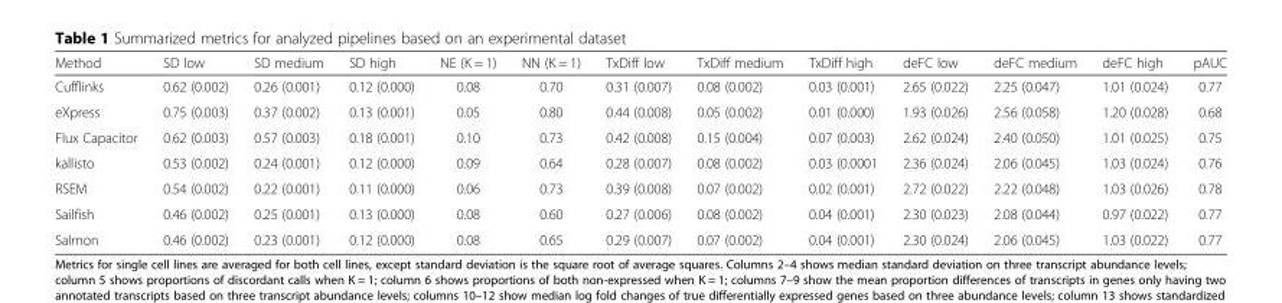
<table><thead><tr><td>Method</td><td>SD low</td><td>SD medium</td><td>SD high</td><td>NE (K = 1)</td><td>NN (K = 1)</td><td>TxDiff low</td><td>TxDiff medium</td><td>TxDiff high</td><td>deFC low</td><td>deFC medium</td><td>deFC high</td><td>pAUC</td></tr></thead><tbody><tr><td>Cufflinks</td><td>0.62 (0.002)</td><td>0.26 (0.001)</td><td>0.12 (0.000)</td><td>0.08</td><td>0.70</td><td>0.31 (0.007)</td><td>0.08 (0.002)</td><td>0.03 (0.001)</td><td>2.65 (0.022)</td><td>2.25 (0.047)</td><td>1.01 (0.024)</td><td>0.77</td></tr><tr><td>eXpress</td><td>0.75 (0.003)</td><td>0.37 (0.002)</td><td>0.13 (0.001)</td><td>0.05</td><td>0.80</td><td>0.44 (0.008)</td><td>0.05 (0.002)</td><td>0.01 (0.000)</td><td>1.93 (0.026)</td><td>2.56 (0.058)</td><td>1.20 (0.028)</td><td>0.68</td></tr><tr><td>Flux Capacitor</td><td>0.62 (0.003)</td><td>0.57 (0.003)</td><td>0.18 (0.001)</td><td>0.10</td><td>0.73</td><td>0.42 (0.008)</td><td>0.15 (0.004)</td><td>0.07 (0.003)</td><td>2.62 (0.024)</td><td>2.40 (0.050)</td><td>1.01 (0.025)</td><td>0.75</td></tr><tr><td>kallisto</td><td>0.53 (0.002)</td><td>0.24 (0.001)</td><td>0.12 (0.000)</td><td>0.09</td><td>0.64</td><td>0.28 (0.007)</td><td>0.08 (0.002)</td><td>0.03 (0.0001</td><td>2.36 (0.024)</td><td>2.06 (0.045)</td><td>1.03 (0.024)</td><td>0.76</td></tr><tr><td>RSEM</td><td>0.54 (0.002)</td><td>0.22 (0.001)</td><td>0.11 (0.000)</td><td>0.06</td><td>0.73</td><td>0.39 (0.008)</td><td>0.07 (0.002)</td><td>0.02 (0.001)</td><td>2.72 (0.022)</td><td>2.22 (0.048)</td><td>1.03 (0.026)</td><td>0.78</td></tr><tr><td>Sailfish</td><td>0.46 (0.002)</td><td>0.25 (0.001)</td><td>0.13 (0.000)</td><td>0.08</td><td>0.60</td><td>0.27 (0.006)</td><td>0.08 (0.002)</td><td>0.04 (0.001)</td><td>2.30 (0.023)</td><td>2.08 (0.044)</td><td>0.97 (0.022)</td><td>0.77</td></tr><tr><td>Salmon</td><td>0.46 (0.002)</td><td>0.23 (0.001)</td><td>0.12 (0.000)</td><td>0.08</td><td>0.65</td><td>0.29 (0.007)</td><td>0.07 (0.002)</td><td>0.04 (0.001)</td><td>2.30 (0.024)</td><td>2.06 (0.045)</td><td>1.03 (0.022)</td><td>0.77</td></tr></tbody></table>